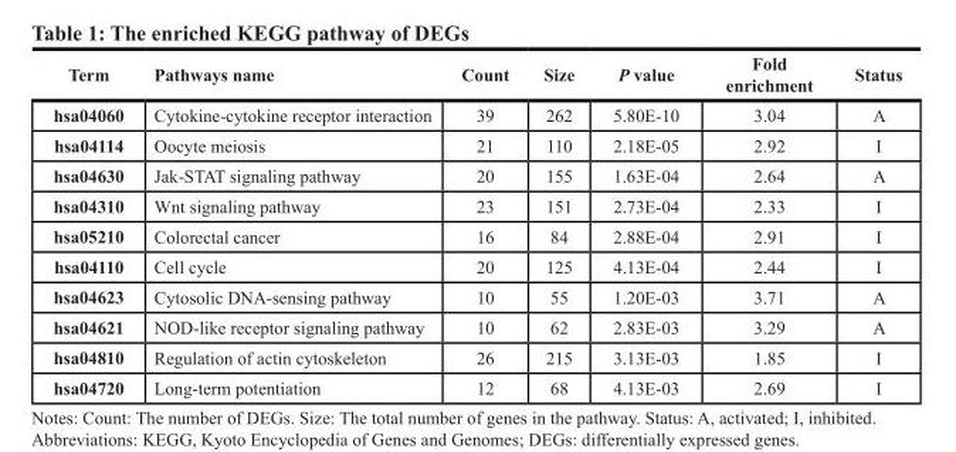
<table><thead><tr><td>Term</td><td>Pathways name</td><td>Count</td><td>Size</td><td>P value</td><td>Fold enrichment</td><td>Status</td></tr></thead><tbody><tr><td>hsa04060</td><td>Cytokine-cytokine receptor interaction</td><td>39</td><td>262</td><td>5.80E-10</td><td>3.04</td><td>A</td></tr><tr><td>hsa04114</td><td>Oocyte meiosis</td><td>21</td><td>110</td><td>2.18E-05</td><td>2.92</td><td>I</td></tr><tr><td>hsa04630</td><td>Jak-STAT signaling pathway</td><td>20</td><td>155</td><td>1.63E-04</td><td>2.64</td><td>A</td></tr><tr><td>hsa04310</td><td>Wnt signaling pathway</td><td>23</td><td>151</td><td>2.73E-04</td><td>2.33</td><td>I</td></tr><tr><td>hsa05210</td><td>Colorectal cancer</td><td>16</td><td>84</td><td>2.88E-04</td><td>2.91</td><td>I</td></tr><tr><td>hsa04110</td><td>Cell cycle</td><td>20</td><td>125</td><td>4.13E-04</td><td>2.44</td><td>I</td></tr><tr><td>hsa04623</td><td>Cytosolic DNA-sensing pathway</td><td>10</td><td>55</td><td>1.20E-03</td><td>3.71</td><td>A</td></tr><tr><td>hsa04621</td><td>NOD-like receptor signaling pathway</td><td>10</td><td>62</td><td>2.83E-03</td><td>3.29</td><td>A</td></tr><tr><td>hsa04810</td><td>Regulation of actin cytoskeleton</td><td>26</td><td>215</td><td>3.13E-03</td><td>1.85</td><td>I</td></tr><tr><td>hsa04720</td><td>Long-term potentiation</td><td>12</td><td>68</td><td>4.13E-03</td><td>2.69</td><td>I</td></tr></tbody></table>